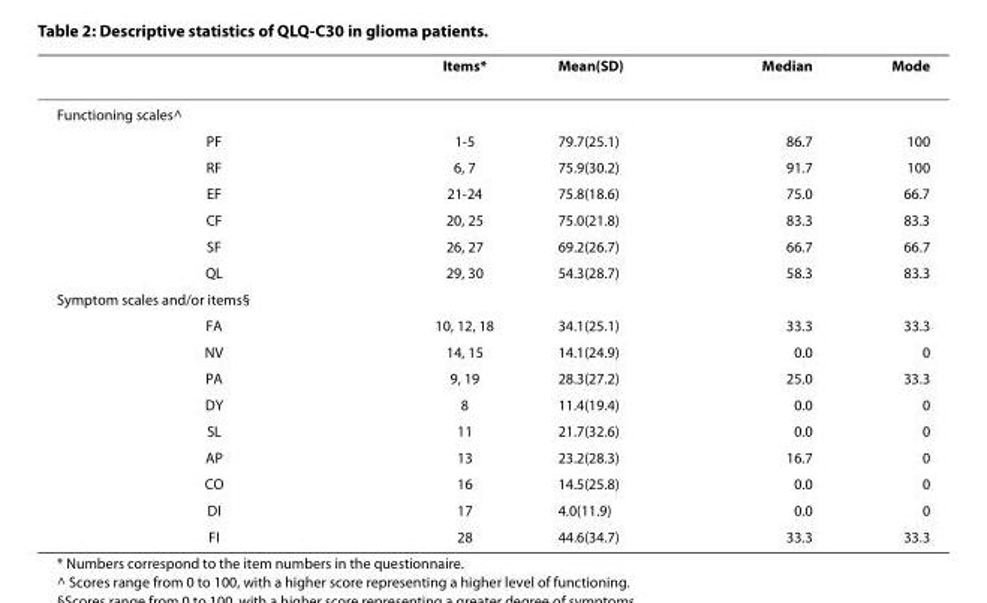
<table><thead><tr><td></td><td>Items*</td><td>Mean(SD)</td><td>Median</td><td>Mode</td></tr></thead><tbody><tr><td colspan="5">Functioning scales^</td></tr><tr><td>PF</td><td>1-5</td><td>79.7(25.1)</td><td>86.7</td><td>100</td></tr><tr><td>RF</td><td>6, 7</td><td>75.9(30.2)</td><td>91.7</td><td>100</td></tr><tr><td>EF</td><td>21-24</td><td>75.8(18.6)</td><td>75.0</td><td>66.7</td></tr><tr><td>CF</td><td>20, 25</td><td>75.0(21.8)</td><td>83.3</td><td>83.3</td></tr><tr><td>SF</td><td>26, 27</td><td>69.2(26.7)</td><td>66.7</td><td>66.7</td></tr><tr><td>QL</td><td>29, 30</td><td>54.3(28.7)</td><td>58.3</td><td>83.3</td></tr><tr><td colspan="5">Symptom scales and/or items§</td></tr><tr><td>FA</td><td>10, 12, 18</td><td>34.1(25.1)</td><td>33.3</td><td>33.3</td></tr><tr><td>NV</td><td>14, 15</td><td>14.1(24.9)</td><td>0.0</td><td>0</td></tr><tr><td>PA</td><td>9, 19</td><td>28.3(27.2)</td><td>25.0</td><td>33.3</td></tr><tr><td>DY</td><td>8</td><td>11.4(19.4)</td><td>0.0</td><td>0</td></tr><tr><td>SL</td><td>11</td><td>21.7(32.6)</td><td>0.0</td><td>0</td></tr><tr><td>AP</td><td>13</td><td>23.2(28.3)</td><td>16.7</td><td>0</td></tr><tr><td>CO</td><td>16</td><td>14.5(25.8)</td><td>0.0</td><td>0</td></tr><tr><td>DI</td><td>17</td><td>4.0(11.9)</td><td>0.0</td><td>0</td></tr><tr><td>FI</td><td>28</td><td>44.6(34.7)</td><td>33.3</td><td>33.3</td></tr></tbody></table>